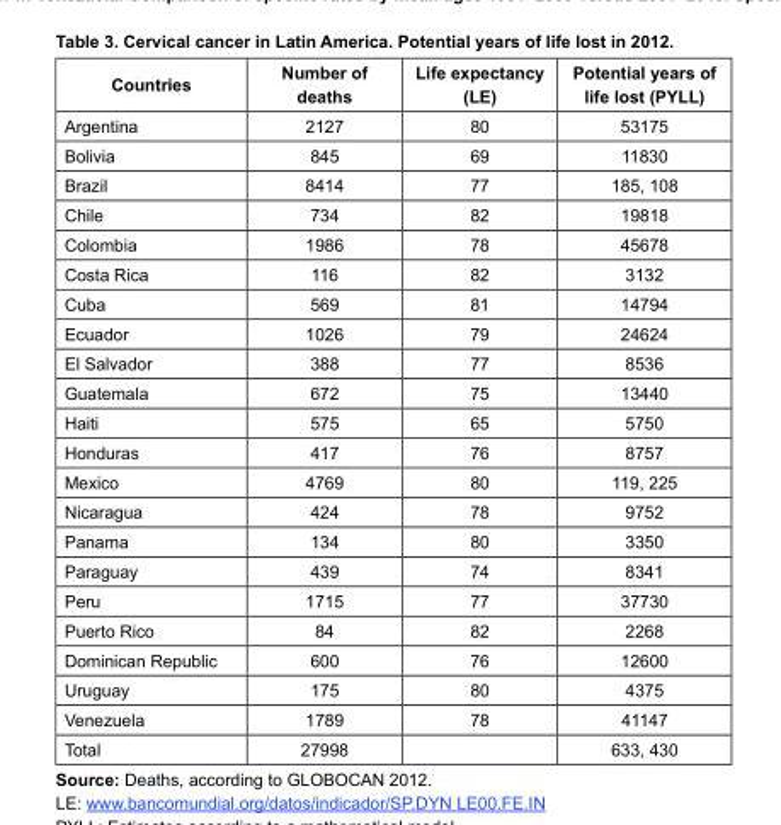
<table><thead><tr><td>Countries</td><td>Number of deaths</td><td>Life expectancy (LE)</td><td>Potential years of life lost (PYLL)</td></tr></thead><tbody><tr><td>Argentina</td><td>2127</td><td>80</td><td>53175</td></tr><tr><td>Bolivia</td><td>845</td><td>69</td><td>11830</td></tr><tr><td>Brazil</td><td>8414</td><td>77</td><td>185, 108</td></tr><tr><td>Chile</td><td>734</td><td>82</td><td>19818</td></tr><tr><td>Colombia</td><td>1986</td><td>78</td><td>45678</td></tr><tr><td>Costa Rica</td><td>116</td><td>82</td><td>3132</td></tr><tr><td>Cuba</td><td>569</td><td>81</td><td>14794</td></tr><tr><td>Ecuador</td><td>1026</td><td>79</td><td>24624</td></tr><tr><td>El Salvador</td><td>388</td><td>77</td><td>8536</td></tr><tr><td>Guatemala</td><td>672</td><td>75</td><td>13440</td></tr><tr><td>Haiti</td><td>575</td><td>65</td><td>5750</td></tr><tr><td>Honduras</td><td>417</td><td>76</td><td>8757</td></tr><tr><td>Mexico</td><td>4769</td><td>80</td><td>119, 225</td></tr><tr><td>Nicaragua</td><td>424</td><td>78</td><td>9752</td></tr><tr><td>Panama</td><td>134</td><td>80</td><td>3350</td></tr><tr><td>Paraguay</td><td>439</td><td>74</td><td>8341</td></tr><tr><td>Peru</td><td>1715</td><td>77</td><td>37730</td></tr><tr><td>Puerto Rico</td><td>84</td><td>82</td><td>2268</td></tr><tr><td>Dominican Republic</td><td>600</td><td>76</td><td>12600</td></tr><tr><td>Uruguay</td><td>175</td><td>80</td><td>4375</td></tr><tr><td>Venezuela</td><td>1789</td><td>78</td><td>41147</td></tr><tr><td>Total</td><td>27998</td><td></td><td>633, 430</td></tr></tbody></table>